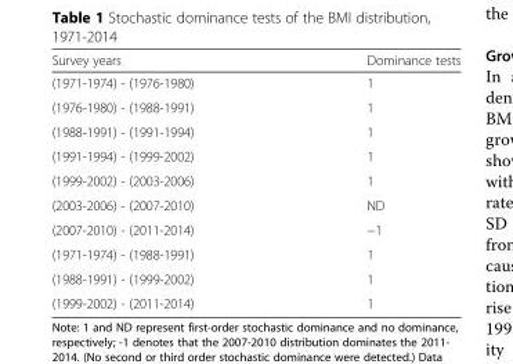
<table><thead><tr><td>Survey years</td><td>Dominance tests</td></tr></thead><tbody><tr><td>(1971-1974) - (1976-1980)</td><td>1</td></tr><tr><td>(1976-1980) - (1988-1991)</td><td>1</td></tr><tr><td>(1988-1991) - (1991-1994)</td><td>1</td></tr><tr><td>(1991-1994) - (1999-2002)</td><td>1</td></tr><tr><td>(1999-2002) - (2003-2006)</td><td>1</td></tr><tr><td>(2003-2006) - (2007-2010)</td><td>ND</td></tr><tr><td>(2007-2010) - (2011-2014)</td><td>−1</td></tr><tr><td>(1971-1974) - (1988-1991)</td><td>1</td></tr><tr><td>(1988-1991) - (1999-2002)</td><td>1</td></tr><tr><td>(1999-2002) - (2011-2014)</td><td>1</td></tr></tbody></table>